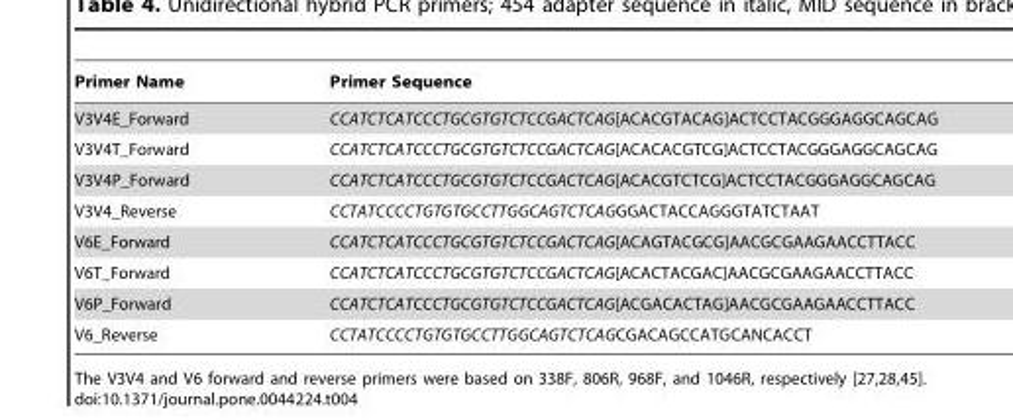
<table><thead><tr><td>Primer Name</td><td>Primer Sequence</td></tr></thead><tbody><tr><td>V3V4E_Forward</td><td>CCATCTCATCCCTGCGTGTCTCCGACTCAG[ACACGTACAG]ACTCCTACGGGAGGCAGCAG</td></tr><tr><td>V3V4T_Forward</td><td>CCATCTCATCCCTGCGTGTCTCCGACTCAG[ACACACGTCG]ACTCCTACGGGAGGCAGCAG</td></tr><tr><td>V3V4P_Forward</td><td>CCATCTCATCCCTGCGTGTCTCCGACTCAG[ACACGTCTCG]ACTCCTACGGGAGGCAGCAG</td></tr><tr><td>V3V4_Reverse</td><td>CCTATCCCCTGTGTGCCTTGGCAGTCTCAGGGACTACCAGGGTATCTAAT</td></tr><tr><td>V6E_Forward</td><td>CCATCTCATCCCTGCGTGTCTCCGACTCAG[ACAGTACGCG]AACGCGAAGAACCTTACC</td></tr><tr><td>V6T_Forward</td><td>CCATCTCATCCCTGCGTGTCTCCGACTCAG[ACACTACGAC]AACGCGAAGAACCTTACC</td></tr><tr><td>V6P_Forward</td><td>CCATCTCATCCCTGCGTGTCTCCGACTCAG[ACGACACTAG]AACGCGAAGAACCTTACC</td></tr><tr><td>V6_Reverse</td><td>CCTATCCCCTGTGTGCCTTGGCAGTCTCAGCGACAGCCATGCANCACCT</td></tr></tbody></table>